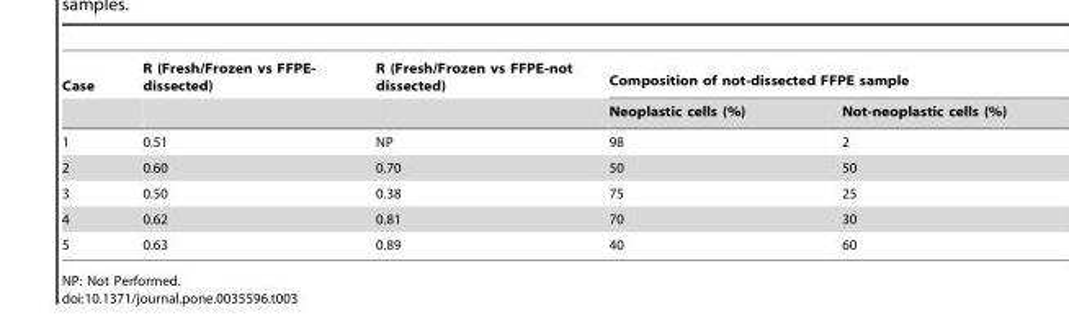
<table><thead><tr><td rowspan="2">Case</td><td rowspan="2">R (Fresh/Frozen vs FFPE- dissected)</td><td rowspan="2">R (Fresh/Frozen vs FFPE-not dissected)</td><td colspan="2">Composition of not-dissected FFPE sample</td></tr><tr><td>Neoplastic cells (%)</td><td>Not-neoplastic cells (%)</td></tr></thead><tbody><tr><td>1</td><td>0.51</td><td>NP</td><td>98</td><td>2</td></tr><tr><td>2</td><td>0.60</td><td>0.70</td><td>50</td><td>50</td></tr><tr><td>3</td><td>0.50</td><td>0.38</td><td>75</td><td>25</td></tr><tr><td>4</td><td>0.62</td><td>0.81</td><td>70</td><td>30</td></tr><tr><td>5</td><td>0.63</td><td>0.89</td><td>40</td><td>60</td></tr></tbody></table>